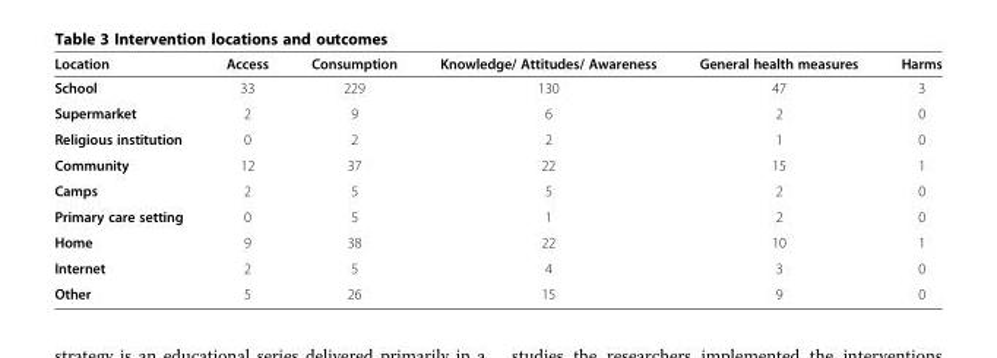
<table><thead><tr><td>Location</td><td>Access</td><td>Consumption</td><td>Knowledge/ Attitudes/ Awareness</td><td>General health measures</td><td>Harms</td></tr></thead><tbody><tr><td>School</td><td>33</td><td>229</td><td>130</td><td>47</td><td>3</td></tr><tr><td>Supermarket</td><td>2</td><td>9</td><td>6</td><td>2</td><td>0</td></tr><tr><td>Religious institution</td><td>0</td><td>2</td><td>2</td><td>1</td><td>0</td></tr><tr><td>Community</td><td>12</td><td>37</td><td>22</td><td>15</td><td>1</td></tr><tr><td>Camps</td><td>2</td><td>5</td><td>5</td><td>2</td><td>0</td></tr><tr><td>Primary care setting</td><td>0</td><td>5</td><td>1</td><td>2</td><td>0</td></tr><tr><td>Home</td><td>9</td><td>38</td><td>22</td><td>10</td><td>1</td></tr><tr><td>Internet</td><td>2</td><td>5</td><td>4</td><td>3</td><td>0</td></tr><tr><td>Other</td><td>5</td><td>26</td><td>15</td><td>9</td><td>0</td></tr></tbody></table>